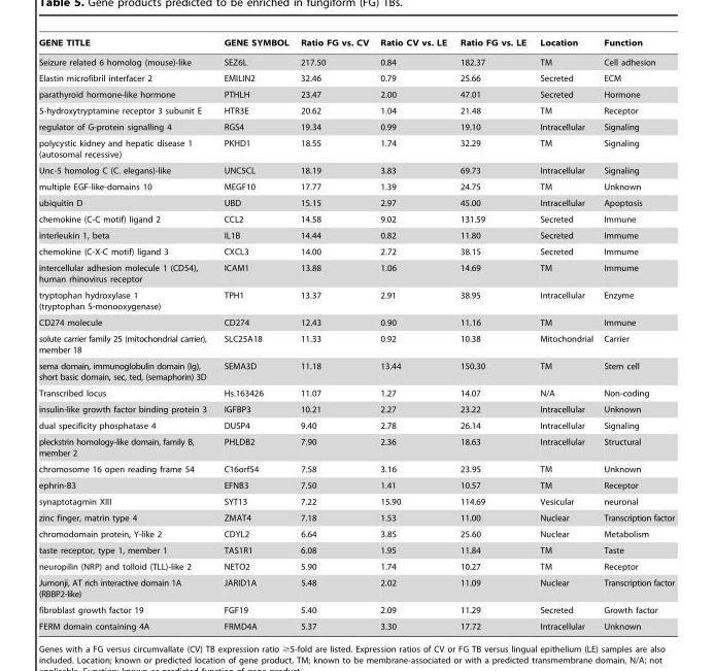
<table><thead><tr><td>GENE TITLE</td><td>GENE SYMBOL</td><td>Ratio FG vs. CV</td><td>Ratio CV vs. LE</td><td>Ratio FG vs. LE</td><td>Location</td><td>Function</td></tr></thead><tbody><tr><td>Seizure related 6 homolog (mouse)-like</td><td>SEZ6L</td><td>217.50</td><td>0.84</td><td>182.37</td><td>TM</td><td>Cell adhesion</td></tr><tr><td>Elastin microfibril interfacer 2</td><td>EMILIN2</td><td>32.46</td><td>0.79</td><td>25.66</td><td>Secreted</td><td>ECM</td></tr><tr><td>parathyroid hormone-like hormone</td><td>PTHLH</td><td>23.47</td><td>2.00</td><td>47.01</td><td>Secreted</td><td>Hormone</td></tr><tr><td>5-hydroxytryptamine receptor 3 subunit E</td><td>HTR3E</td><td>20.62</td><td>1.04</td><td>21.48</td><td>TM</td><td>Receptor</td></tr><tr><td>regulator of G-protein signalling 4</td><td>RGS4</td><td>19.34</td><td>0.99</td><td>19.10</td><td>Intracellular</td><td>Signaling</td></tr><tr><td>polycystic kidney and hepatic disease 1 (autosomal recessive)</td><td>PKHD1</td><td>18.55</td><td>1.74</td><td>32.29</td><td>TM</td><td>Signaling</td></tr><tr><td>Unc-5 homolog C (C. elegans)-like</td><td>UNC5CL</td><td>18.19</td><td>3.83</td><td>69.73</td><td>Intracellular</td><td>Signaling</td></tr><tr><td>multiple EGF-like-domains 10</td><td>MEGF10</td><td>17.77</td><td>1.39</td><td>24.75</td><td>TM</td><td>Unknown</td></tr><tr><td>ubiquitin D</td><td>UBD</td><td>15.15</td><td>2.97</td><td>45.00</td><td>Intracellular</td><td>Apoptosis</td></tr><tr><td>chemokine (C-C motif) ligand 2</td><td>CCL2</td><td>14.58</td><td>9.02</td><td>131.59</td><td>Secreted</td><td>Immune</td></tr><tr><td>interleukin 1, beta</td><td>IL1B</td><td>14.44</td><td>0.82</td><td>11.80</td><td>Secreted</td><td>Immume</td></tr><tr><td>chemokine (C-X-C motif) ligand 3</td><td>CXCL3</td><td>14.00</td><td>2.72</td><td>38.15</td><td>Secreted</td><td>Immume</td></tr><tr><td>intercellular adhesion molecule 1 (CD54), human rhinovirus receptor</td><td>ICAM1</td><td>13.88</td><td>1.06</td><td>14.69</td><td>TM</td><td>Immume</td></tr><tr><td>tryptophan hydroxylase 1 (tryptophan 5-monooxygenase)</td><td>TPH1</td><td>13.37</td><td>2.91</td><td>38.95</td><td>Intracellular</td><td>Enzyme</td></tr><tr><td>CD274 molecule</td><td>CD274</td><td>12.43</td><td>0.90</td><td>11.16</td><td>TM</td><td>Immune</td></tr><tr><td>solute carrier family 25 (mitochondrial carrier), member 18</td><td>SLC25A18</td><td>11.33</td><td>0.92</td><td>10.38</td><td>Mitochondrial</td><td>Carrier</td></tr><tr><td>sema domain, immunoglobulin domain (Ig), short basic domain, sec, ted, (semaphorin) 3D</td><td>SEMA3D</td><td>11.18</td><td>13.44</td><td>150.30</td><td>TM</td><td>Stem cell</td></tr><tr><td>Transcribed locus</td><td>Hs.163426</td><td>11.07</td><td>1.27</td><td>14.07</td><td>N/A</td><td>Non-coding</td></tr><tr><td>insulin-like growth factor binding protein 3</td><td>IGFBP3</td><td>10.21</td><td>2.27</td><td>23.22</td><td>Intracellular</td><td>Unknown</td></tr><tr><td>dual specificity phosphatase 4</td><td>DUSP4</td><td>9.40</td><td>2.78</td><td>26.14</td><td>Intracellular</td><td>Signaling</td></tr><tr><td>pleckstrin homology-like domain, family B, member 2</td><td>PHLDB2</td><td>7.90</td><td>2.36</td><td>18.63</td><td>Intracellular</td><td>Structural</td></tr><tr><td>chromosome 16 open reading frame 54</td><td>C16orf54</td><td>7.58</td><td>3.16</td><td>23.95</td><td>TM</td><td>Unknown</td></tr><tr><td>ephrin-B3</td><td>EFNB3</td><td>7.50</td><td>1.41</td><td>10.57</td><td>TM</td><td>Receptor</td></tr><tr><td>synaptotagmin XIII</td><td>SYT13</td><td>7.22</td><td>15.90</td><td>114.69</td><td>Vesicular</td><td>neuronal</td></tr><tr><td>zinc finger, matrin type 4</td><td>ZMAT4</td><td>7.18</td><td>1.53</td><td>11.00</td><td>Nuclear</td><td>Transcription factor</td></tr><tr><td>chromodomain protein, Y-like 2</td><td>CDYL2</td><td>6.64</td><td>3.85</td><td>25.60</td><td>Nuclear</td><td>Metabolism</td></tr><tr><td>taste receptor, type 1, member 1</td><td>TAS1R1</td><td>6.08</td><td>1.95</td><td>11.84</td><td>TM</td><td>Taste</td></tr><tr><td>neuropilin (NRP) and tolloid (TLL)-like 2</td><td>NETO2</td><td>5.90</td><td>1.74</td><td>10.27</td><td>TM</td><td>Receptor</td></tr><tr><td>Jumonji, AT rich interactive domain 1A (RBBP2-like)</td><td>JARID1A</td><td>5.48</td><td>2.02</td><td>11.09</td><td>Nuclear</td><td>Transcription factor</td></tr><tr><td>fibroblast growth factor 19</td><td>FGF19</td><td>5.40</td><td>2.09</td><td>11.29</td><td>Secreted</td><td>Growth factor</td></tr><tr><td>FERM domain containing 4A</td><td>FRMD4A</td><td>5.37</td><td>3.30</td><td>17.72</td><td>Intracellular</td><td>Unknown</td></tr></tbody></table>